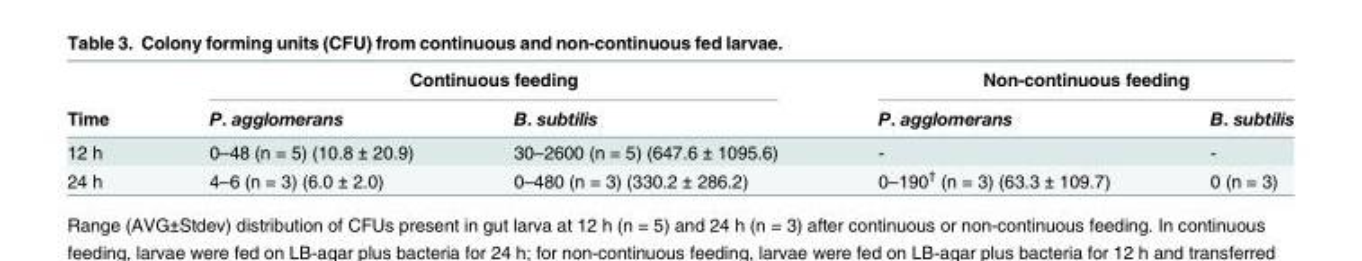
<table><thead><tr><td rowspan="2">Time</td><td colspan="2">Continuous feeding</td><td colspan="2">Non-continuous feeding</td></tr><tr><td>P. agglomerans</td><td>B. subtilis</td><td>P. agglomerans</td><td>B. subtilis</td></tr></thead><tbody><tr><td>12 h</td><td>0–48 (n = 5) (10.8 ± 20.9)</td><td>30–2600 (n = 5) (647.6 ± 1095.6)</td><td>-</td><td>-</td></tr><tr><td>24 h</td><td>4–6 (n = 3) (6.0 ± 2.0)</td><td>0–480 (n = 3) (330.2 ± 286.2)</td><td>0–190<sup>†</sup> (n = 3) (63.3 ± 109.7)</td><td>0 (n = 3)</td></tr></tbody></table>